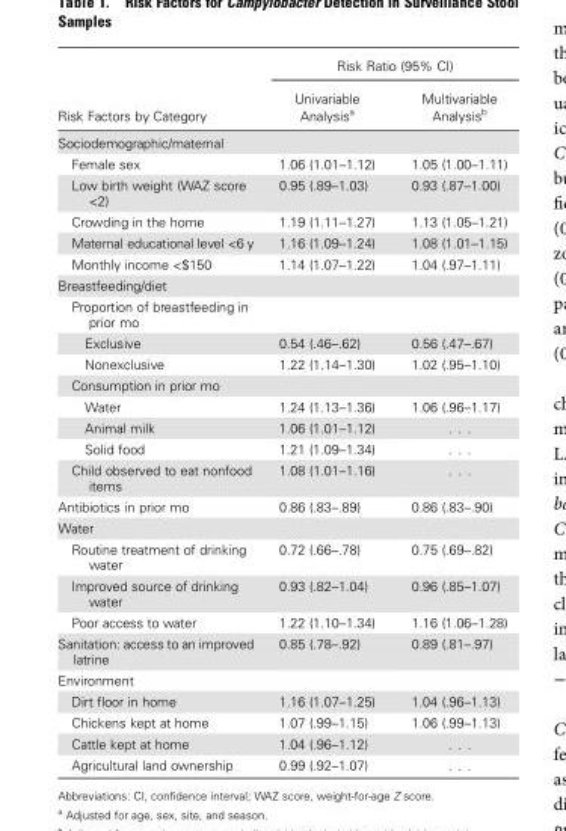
<table><thead><tr><td rowspan="2">Risk Factors by Category</td><td colspan="2">Risk Ratio (95% CI)</td></tr><tr><td>Univariable Analysis<sup>a</sup></td><td>Multivariable Analysis<sup>b</sup></td></tr></thead><tbody><tr><td colspan="3">Sociodemographic/maternal</td></tr><tr><td>Female sex</td><td>1.06 (1.01–1.12)</td><td>1.05 (1.00–1.11)</td></tr><tr><td>Low birth weight (WAZ score &lt;2)</td><td>0.95 (.89–1.03)</td><td>0.93 (.87–1.00)</td></tr><tr><td>Crowding in the home</td><td>1.19 (1.11–1.27)</td><td>1.13 (1.05–1.21)</td></tr><tr><td>Maternal educational level &lt;6 y</td><td>1.16 (1.09–1.24)</td><td>1.08 (1.01–1.15)</td></tr><tr><td>Monthly income &lt;$150</td><td>1.14 (1.07–1.22)</td><td>1.04 (.97–1.11)</td></tr><tr><td colspan="3">Breastfeeding/diet</td></tr><tr><td colspan="3">Proportion of breastfeeding in prior mo</td></tr><tr><td>Exclusive</td><td>0.54 (.46–.62)</td><td>0.56 (.47–.67)</td></tr><tr><td>Nonexclusive</td><td>1.22 (1.14–1.30)</td><td>1.02 (.95–1.10)</td></tr><tr><td colspan="3">Consumption in prior mo</td></tr><tr><td>Water</td><td>1.24 (1.13–1.36)</td><td>1.06 (.96–1.17)</td></tr><tr><td>Animal milk</td><td>1.06 (1.01–1.12)</td><td>. . .</td></tr><tr><td>Solid food</td><td>1.21 (1.09–1.34)</td><td>. . .</td></tr><tr><td>Child observed to eat nonfood items</td><td>1.08 (1.01–1.16)</td><td>. . .</td></tr><tr><td>Antibiotics in prior mo</td><td>0.86 (.83–.89)</td><td>0.86 (.83–.90)</td></tr><tr><td colspan="3">Water</td></tr><tr><td>Routine treatment of drinking water</td><td>0.72 (.66–.78)</td><td>0.75 (.69–.82)</td></tr><tr><td>Improved source of drinking water</td><td>0.93 (.82–1.04)</td><td>0.96 (.85–1.07)</td></tr><tr><td>Poor access to water</td><td>1.22 (1.10–1.34)</td><td>1.16 (1.06–1.28)</td></tr><tr><td>Sanitation: access to an improved latrine</td><td>0.85 (.78–.92)</td><td>0.89 (.81–.97)</td></tr><tr><td colspan="3">Environment</td></tr><tr><td>Dirt floor in home</td><td>1.16 (1.07–1.25)</td><td>1.04 (.96–1.13)</td></tr><tr><td>Chickens kept at home</td><td>1.07 (.99–1.15)</td><td>1.06 (.99–1.13)</td></tr><tr><td>Cattle kept at home</td><td>1.04 (.96–1.12)</td><td>. . .</td></tr><tr><td>Agricultural land ownership</td><td>0.99 (.92–1.07)</td><td>. . .</td></tr></tbody></table>